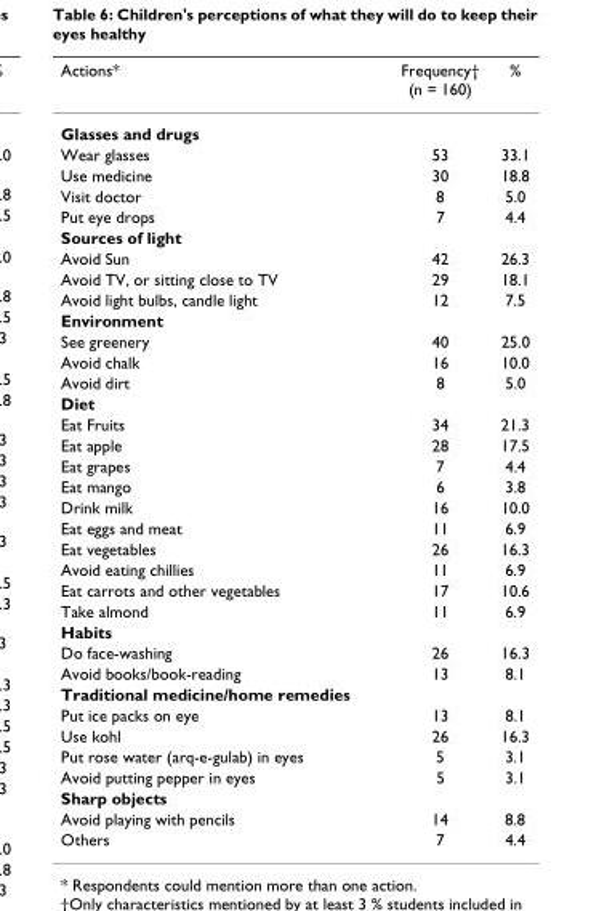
<table><thead><tr><td>Actions*</td><td>Frequency† (n = 160)</td><td>%</td></tr></thead><tbody><tr><td colspan="3">Glasses and drugs</td></tr><tr><td>Wear glasses</td><td>53</td><td>33.1</td></tr><tr><td>Use medicine</td><td>30</td><td>18.8</td></tr><tr><td>Visit doctor</td><td>8</td><td>5.0</td></tr><tr><td>Put eye drops</td><td>7</td><td>4.4</td></tr><tr><td colspan="3">Sources of light</td></tr><tr><td>Avoid Sun</td><td>42</td><td>26.3</td></tr><tr><td>Avoid TV, or sitting close to TV</td><td>29</td><td>18.1</td></tr><tr><td>Avoid light bulbs, candle light</td><td>12</td><td>7.5</td></tr><tr><td colspan="3">Environment</td></tr><tr><td>See greenery</td><td>40</td><td>25.0</td></tr><tr><td>Avoid chalk</td><td>16</td><td>10.0</td></tr><tr><td>Avoid dirt</td><td>8</td><td>5.0</td></tr><tr><td colspan="3">Diet</td></tr><tr><td>Eat Fruits</td><td>34</td><td>21.3</td></tr><tr><td>Eat apple</td><td>28</td><td>17.5</td></tr><tr><td>Eat grapes</td><td>7</td><td>4.4</td></tr><tr><td>Eat mango</td><td>6</td><td>3.8</td></tr><tr><td>Drink milk</td><td>16</td><td>10.0</td></tr><tr><td>Eat eggs and meat</td><td>11</td><td>6.9</td></tr><tr><td>Eat vegetables</td><td>26</td><td>16.3</td></tr><tr><td>Avoid eating chillies</td><td>11</td><td>6.9</td></tr><tr><td>Eat carrots and other vegetables</td><td>17</td><td>10.6</td></tr><tr><td>Take almond</td><td>11</td><td>6.9</td></tr><tr><td colspan="3">Habits</td></tr><tr><td>Do face-washing</td><td>26</td><td>16.3</td></tr><tr><td>Avoid books/book-reading</td><td>13</td><td>8.1</td></tr><tr><td colspan="3">Traditional medicine/home remedies</td></tr><tr><td>Put ice packs on eye</td><td>13</td><td>8.1</td></tr><tr><td>Use kohl</td><td>26</td><td>16.3</td></tr><tr><td>Put rose water (arq-e-gulab) in eyes</td><td>5</td><td>3.1</td></tr><tr><td>Avoid putting pepper in eyes</td><td>5</td><td>3.1</td></tr><tr><td colspan="3">Sharp objects</td></tr><tr><td>Avoid playing with pencils</td><td>14</td><td>8.8</td></tr><tr><td>Others</td><td>7</td><td>4.4</td></tr></tbody></table>